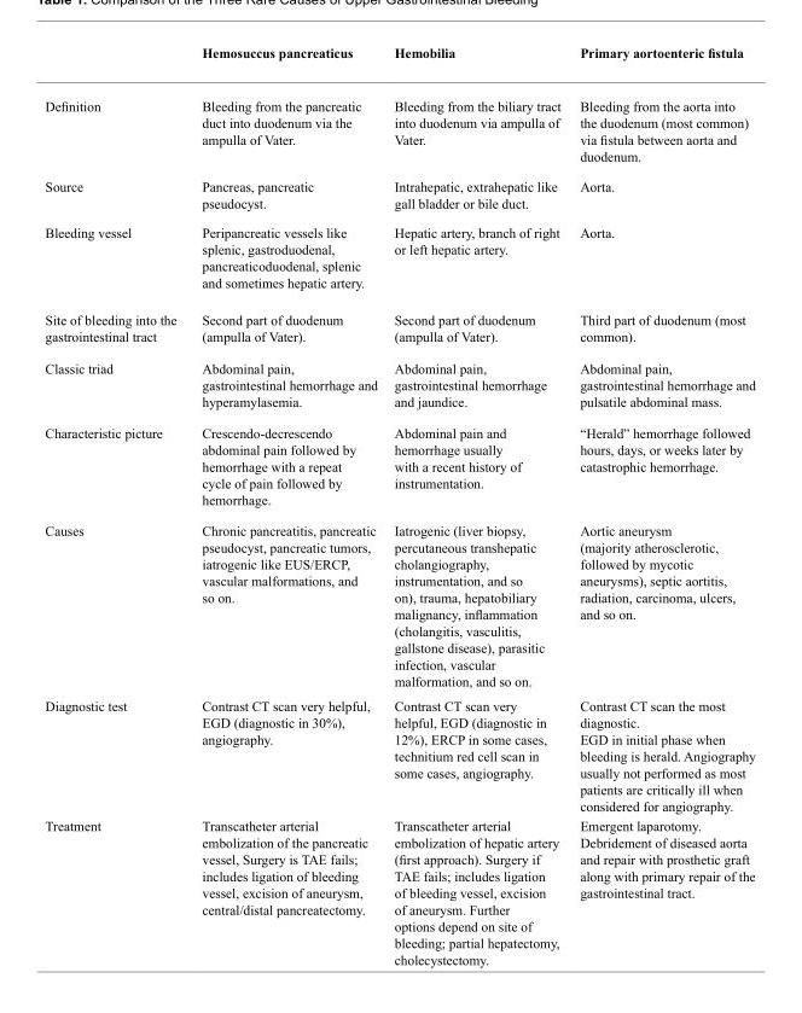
<table><thead><tr><td></td><td>Hemosuccus pancreaticus</td><td>Hemobilia</td><td>Primary aortoenteric fistula</td></tr></thead><tbody><tr><td>Definition</td><td>Bleeding from the pancreatic duct into duodenum via the ampulla of Vater.</td><td>Bleeding from the biliary tract into duodenum via ampulla of Vater.</td><td>Bleeding from the aorta into the duodenum (most common) via fistula between aorta and duodenum.</td></tr><tr><td>Source</td><td>Pancreas, pancreatic pseudocyst.</td><td>Intrahepatic, extrahepatic like gall bladder or bile duct.</td><td>Aorta.</td></tr><tr><td>Bleeding vessel</td><td>Peripancreatic vessels like splenic, gastroduodenal, pancreaticoduodenal, splenic and sometimes hepatic artery.</td><td>Hepatic artery, branch of right or left hepatic artery.</td><td>Aorta.</td></tr><tr><td>Site of bleeding into the gastrointestinal tract</td><td>Second part of duodenum (ampulla of Vater).</td><td>Second part of duodenum (ampulla of Vater).</td><td>Third part of duodenum (most common).</td></tr><tr><td>Classic triad</td><td>Abdominal pain, gastrointestinal hemorrhage and hyperamylasemia.</td><td>Abdominal pain, gastrointestinal hemorrhage and jaundice.</td><td>Abdominal pain, gastrointestinal hemorrhage and pulsatile abdominal mass.</td></tr><tr><td>Characteristic picture</td><td>Crescendo-decrescendo abdominal pain followed by hemorrhage with a repeat cycle of pain followed by hemorrhage.</td><td>Abdominal pain and hemorrhage usually with a recent history of instrumentation.</td><td>“Herald” hemorrhage followed hours, days, or weeks later by catastrophic hemorrhage.</td></tr><tr><td>Causes</td><td>Chronic pancreatitis, pancreatic pseudocyst, pancreatic tumors, iatrogenic like EUS/ERCP, vascular malformations, and so on.</td><td>Iatrogenic (liver biopsy, percutaneous transhepatic cholangiography, instrumentation, and so on), trauma, hepatobiliary malignancy, inflammation (cholangitis, vasculitis, gallstone disease), parasitic infection, vascular malformation, and so on.</td><td>Aortic aneurysm (majority atherosclerotic, followed by mycotic aneurysms), septic aortitis, radiation, carcinoma, ulcers, and so on.</td></tr><tr><td>Diagnostic test</td><td>Contrast CT scan very helpful, EGD (diagnostic in 30%), angiography.</td><td>Contrast CT scan very helpful, EGD (diagnostic in 12%), ERCP in some cases, technitium red cell scan in some cases, angiography.</td><td>Contrast CT scan the most diagnostic. EGD in initial phase when bleeding is herald. Angiography usually not performed as most patients are critically ill when considered for angiography.</td></tr><tr><td>Treatment</td><td>Transcatheter arterial embolization of the pancreatic vessel, Surgery is TAE fails; includes ligation of bleeding vessel, excision of aneurysm, central/distal pancreatectomy.</td><td>Transcatheter arterial embolization of hepatic artery (first approach). Surgery if TAE fails; includes ligation of bleeding vessel, excision of aneurysm. Further options depend on site of bleeding; partial hepatectomy, cholecystectomy.</td><td>Emergent laparotomy. Debridement of diseased aorta and repair with prosthetic graft along with primary repair of the gastrointestinal tract.</td></tr></tbody></table>